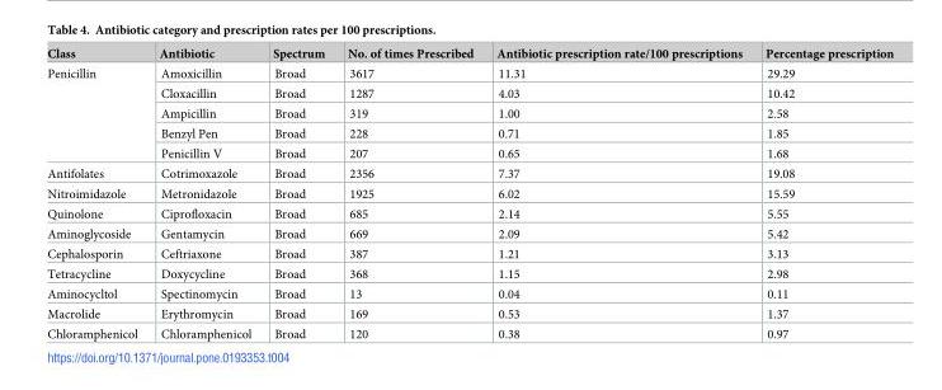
<table><thead><tr><td>Class</td><td>Antibiotic</td><td>Spectrum</td><td>No. of times Prescribed</td><td>Antibiotic prescription rate/100 prescriptions</td><td>Percentage prescription</td></tr></thead><tbody><tr><td rowspan="5">Penicillin</td><td>Amoxicillin</td><td>Broad</td><td>3617</td><td>11.31</td><td>29.29</td></tr><tr><td>Cloxacillin</td><td>Broad</td><td>1287</td><td>4.03</td><td>10.42</td></tr><tr><td>Ampicillin</td><td>Broad</td><td>319</td><td>1.00</td><td>2.58</td></tr><tr><td>Benzyl Pen</td><td>Broad</td><td>228</td><td>0.71</td><td>1.85</td></tr><tr><td>Penicillin V</td><td>Broad</td><td>207</td><td>0.65</td><td>1.68</td></tr><tr><td>Antifolates</td><td>Cotrimoxazole</td><td>Broad</td><td>2356</td><td>7.37</td><td>19.08</td></tr><tr><td>Nitroimidazole</td><td>Metronidazole</td><td>Broad</td><td>1925</td><td>6.02</td><td>15.59</td></tr><tr><td>Quinolone</td><td>Ciprofloxacin</td><td>Broad</td><td>685</td><td>2.14</td><td>5.55</td></tr><tr><td>Aminoglycoside</td><td>Gentamycin</td><td>Broad</td><td>669</td><td>2.09</td><td>5.42</td></tr><tr><td>Cephalosporin</td><td>Ceftriaxone</td><td>Broad</td><td>387</td><td>1.21</td><td>3.13</td></tr><tr><td>Tetracycline</td><td>Doxycycline</td><td>Broad</td><td>368</td><td>1.15</td><td>2.98</td></tr><tr><td>Aminocycltol</td><td>Spectinomycin</td><td>Broad</td><td>13</td><td>0.04</td><td>0.11</td></tr><tr><td>Macrolide</td><td>Erythromycin</td><td>Broad</td><td>169</td><td>0.53</td><td>1.37</td></tr><tr><td>Chloramphenicol</td><td>Chloramphenicol</td><td>Broad</td><td>120</td><td>0.38</td><td>0.97</td></tr></tbody></table>